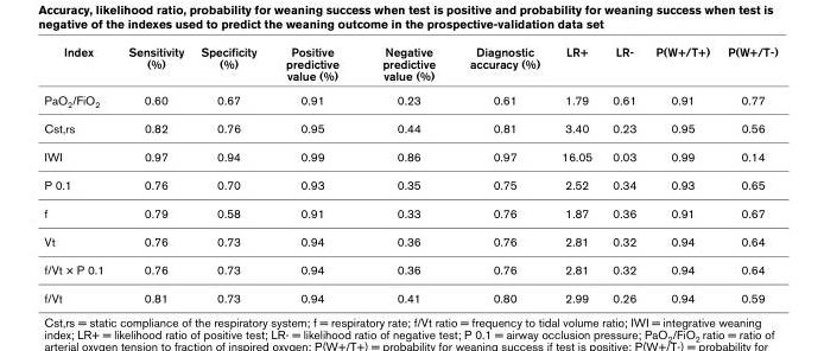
<table><thead><tr><td>Index</td><td>Sensitivity (%)</td><td>Specificity (%)</td><td>Positive predictive value (%)</td><td>Negative predictive value (%)</td><td>Diagnostic accuracy (%)</td><td>LR+</td><td>LR-</td><td>P(W+/T+)</td><td>P(W+/T-)</td></tr></thead><tbody><tr><td>PaO<sub>2</sub>/FiO<sub>2</sub></td><td>0.60</td><td>0.67</td><td>0.91</td><td>0.23</td><td>0.61</td><td>1.79</td><td>0.61</td><td>0.91</td><td>0.77</td></tr><tr><td>Cst,rs</td><td>0.82</td><td>0.76</td><td>0.95</td><td>0.44</td><td>0.81</td><td>3.40</td><td>0.23</td><td>0.95</td><td>0.56</td></tr><tr><td>IWI</td><td>0.97</td><td>0.94</td><td>0.99</td><td>0.86</td><td>0.97</td><td>16.05</td><td>0.03</td><td>0.99</td><td>0.14</td></tr><tr><td>P 0.1</td><td>0.76</td><td>0.70</td><td>0.93</td><td>0.35</td><td>0.75</td><td>2.52</td><td>0.34</td><td>0.93</td><td>0.65</td></tr><tr><td>f</td><td>0.79</td><td>0.58</td><td>0.91</td><td>0.33</td><td>0.76</td><td>1.87</td><td>0.36</td><td>0.91</td><td>0.67</td></tr><tr><td>Vt</td><td>0.76</td><td>0.73</td><td>0.94</td><td>0.36</td><td>0.76</td><td>2.81</td><td>0.32</td><td>0.94</td><td>0.64</td></tr><tr><td>f/Vt × P 0.1</td><td>0.76</td><td>0.73</td><td>0.94</td><td>0.36</td><td>0.76</td><td>2.81</td><td>0.32</td><td>0.94</td><td>0.64</td></tr><tr><td>f/Vt</td><td>0.81</td><td>0.73</td><td>0.94</td><td>0.41</td><td>0.80</td><td>2.99</td><td>0.26</td><td>0.94</td><td>0.59</td></tr></tbody></table>